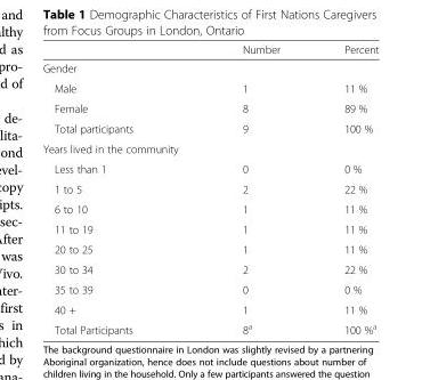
<table><thead><tr><td></td><td>Number</td><td>Percent</td></tr></thead><tbody><tr><td colspan="3">Gender</td></tr><tr><td>Male</td><td>1</td><td>11 %</td></tr><tr><td>Female</td><td>8</td><td>89 %</td></tr><tr><td>Total participants</td><td>9</td><td>100 %</td></tr><tr><td colspan="3">Years lived in the community</td></tr><tr><td>Less than 1</td><td>0</td><td>0 %</td></tr><tr><td>1 to 5</td><td>2</td><td>22 %</td></tr><tr><td>6 to 10</td><td>1</td><td>11 %</td></tr><tr><td>11 to 19</td><td>1</td><td>11 %</td></tr><tr><td>20 to 25</td><td>1</td><td>11 %</td></tr><tr><td>30 to 34</td><td>2</td><td>22 %</td></tr><tr><td>35 to 39</td><td>0</td><td>0 %</td></tr><tr><td>40 +</td><td>1</td><td>11 %</td></tr><tr><td>Total Participants</td><td>8<sup>a</sup></td><td>100 %<sup>a</sup></td></tr></tbody></table>